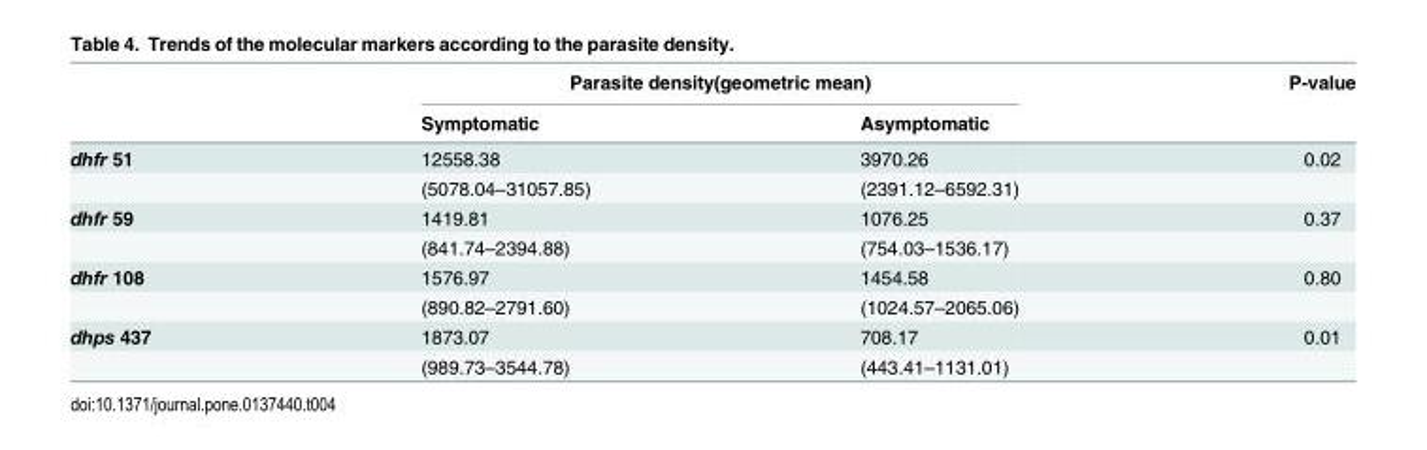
<table><thead><tr><td rowspan="2"></td><td colspan="2">Parasite density(geometric mean)</td><td rowspan="2">P-value</td></tr><tr><td>Symptomatic</td><td>Asymptomatic</td></tr></thead><tbody><tr><td rowspan="2">dhfr 51</td><td>12558.38</td><td>3970.26</td><td>0.02</td></tr><tr><td>(5078.04–31057.85)</td><td>(2391.12–6592.31)</td><td></td></tr><tr><td rowspan="2">dhfr 59</td><td>1419.81</td><td>1076.25</td><td>0.37</td></tr><tr><td>(841.74–2394.88)</td><td>(754.03–1536.17)</td><td></td></tr><tr><td rowspan="2">dhfr 108</td><td>1576.97</td><td>1454.58</td><td>0.80</td></tr><tr><td>(890.82–2791.60)</td><td>(1024.57–2065.06)</td><td></td></tr><tr><td rowspan="2">dhps 437</td><td>1873.07</td><td>708.17</td><td>0.01</td></tr><tr><td>(989.73–3544.78)</td><td>(443.41–1131.01)</td><td></td></tr></tbody></table>